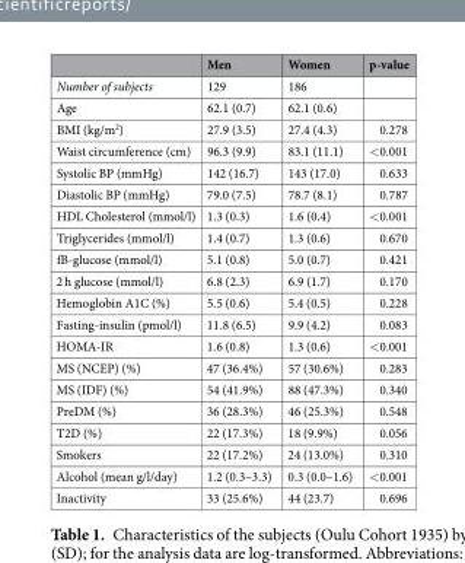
<table><thead><tr><td></td><td>Men</td><td>Women</td><td>p-value</td></tr></thead><tbody><tr><td>Number of subjects</td><td>129</td><td>186</td><td></td></tr><tr><td>Age</td><td>62.1 (0.7)</td><td>62.1 (0.6)</td><td></td></tr><tr><td>BMI (kg/m<sup>2</sup>)</td><td>27.9 (3.5)</td><td>27.4 (4.3)</td><td>0.278</td></tr><tr><td>Waist circumference (cm)</td><td>96.3 (9.9)</td><td>83.1 (11.1)</td><td>&lt;0.001</td></tr><tr><td>Systolic BP (mmHg)</td><td>142 (16.7)</td><td>143 (17.0)</td><td>0.633</td></tr><tr><td>Diastolic BP (mmHg)</td><td>79.0 (7.5)</td><td>78.7 (8.1)</td><td>0.787</td></tr><tr><td>HDL Cholesterol (mmol/l)</td><td>1.3 (0.3)</td><td>1.6 (0.4)</td><td>&lt;0.001</td></tr><tr><td>Triglycerides (mmol/l)</td><td>1.4 (0.7)</td><td>1.3 (0.6)</td><td>0.670</td></tr><tr><td>fB-glucose (mmol/l)</td><td>5.1 (0.8)</td><td>5.0 (0.7)</td><td>0.421</td></tr><tr><td>2 h glucose (mmol/l)</td><td>6.8 (2.3)</td><td>6.9 (1.7)</td><td>0.170</td></tr><tr><td>Hemoglobin A1C (%)</td><td>5.5 (0.6)</td><td>5.4 (0.5)</td><td>0.228</td></tr><tr><td>Fasting-insulin (pmol/l)</td><td>11.8 (6.5)</td><td>9.9 (4.2)</td><td>0.083</td></tr><tr><td>HOMA-IR</td><td>1.6 (0.8)</td><td>1.3 (0.6)</td><td>&lt;0.001</td></tr><tr><td>MS (NCEP) (%)</td><td>47 (36.4%)</td><td>57 (30.6%)</td><td>0.283</td></tr><tr><td>MS (IDF) (%)</td><td>54 (41.9%)</td><td>88 (47.3%)</td><td>0.340</td></tr><tr><td>PreDM (%)</td><td>36 (28.3%)</td><td>46 (25.3%)</td><td>0.548</td></tr><tr><td>T2D (%)</td><td>22 (17.3%)</td><td>18 (9.9%)</td><td>0.056</td></tr><tr><td>Smokers</td><td>22 (17.2%)</td><td>24 (13.0%)</td><td>0.310</td></tr><tr><td>Alcohol (mean g/l/day)</td><td>1.2 (0.3–3.3)</td><td>0.3 (0.0–1.6)</td><td>&lt;0.001</td></tr><tr><td>Inactivity</td><td>33 (25.6%)</td><td>44 (23.7)</td><td>0.696</td></tr></tbody></table>